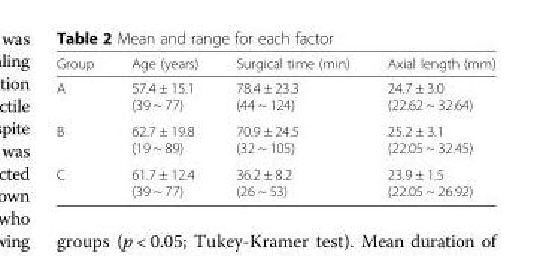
<table><thead><tr><td>Group</td><td>Age (years)</td><td>Surgical time (min)</td><td>Axial length (mm)</td></tr></thead><tbody><tr><td>A</td><td>57.4 ± 15.1 (39 ~ 77)</td><td>78.4 ± 23.3 (44 ~ 124)</td><td>24.7 ± 3.0 (22.62 ~ 32.64)</td></tr><tr><td>B</td><td>62.7 ± 19.8 (19 ~ 89)</td><td>70.9 ± 24.5 (32 ~ 105)</td><td>25.2 ± 3.1 (22.05 ~ 32.45)</td></tr><tr><td>C</td><td>61.7 ± 12.4 (39 ~ 77)</td><td>36.2 ± 8.2 (26 ~ 53)</td><td>23.9 ± 1.5 (22.05 ~ 26.92)</td></tr></tbody></table>